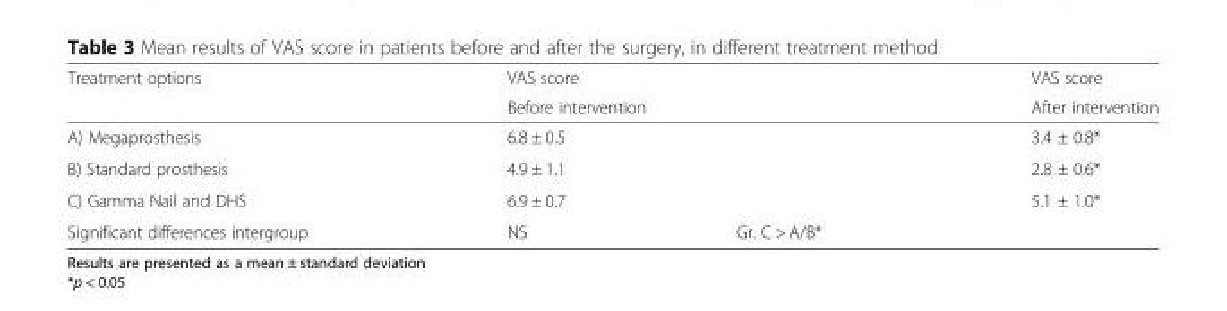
<table><thead><tr><td rowspan="2">Treatment options</td><td rowspan="2" colspan="2">VAS score Before intervention</td><td rowspan="2">VAS score After intervention</td></tr><tr></tr></thead><tbody><tr><td>A) Megaprosthesis</td><td colspan="2">6.8 ± 0.5</td><td>3.4 ± 0.8*</td></tr><tr><td>B) Standard prosthesis</td><td colspan="2">4.9 ± 1.1</td><td>2.8 ± 0.6*</td></tr><tr><td>C) Gamma Nail and DHS</td><td colspan="2">6.9 ± 0.7</td><td>5.1 ± 1.0*</td></tr><tr><td>Significant differences intergroup</td><td>NS</td><td>Gr. C &gt; A/B*</td><td></td></tr></tbody></table>